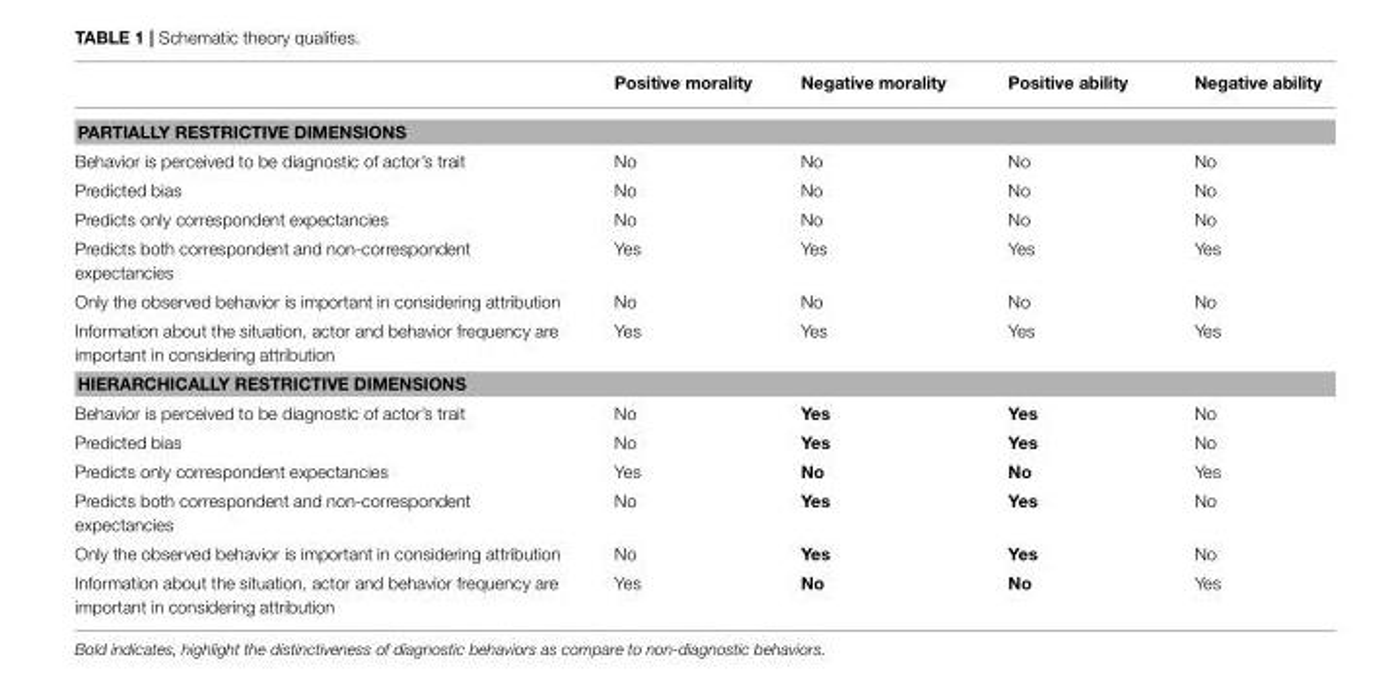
<table><thead><tr><td></td><td>Positive morality</td><td>Negative morality</td><td>Positive ability</td><td>Negative ability</td></tr></thead><tbody><tr><td colspan="5">PARTIALLY RESTRICTIVE DIMENSIONS</td></tr><tr><td>Behavior is perceived to be diagnostic of actor’s trait</td><td>No</td><td>No</td><td>No</td><td>No</td></tr><tr><td>Predicted bias</td><td>No</td><td>No</td><td>No</td><td>No</td></tr><tr><td>Predicts only correspondent expectancies</td><td>No</td><td>No</td><td>No</td><td>No</td></tr><tr><td>Predicts both correspondent and non-correspondent expectancies</td><td>Yes</td><td>Yes</td><td>Yes</td><td>Yes</td></tr><tr><td>Only the observed behavior is important in considering attribution</td><td>No</td><td>No</td><td>No</td><td>No</td></tr><tr><td>Information about the situation, actor and behavior frequency are important in considering attribution</td><td>Yes</td><td>Yes</td><td>Yes</td><td>Yes</td></tr><tr><td colspan="5">HIERARCHICALLY RESTRICTIVE DIMENSIONS</td></tr><tr><td>Behavior is perceived to be diagnostic of actor’s trait</td><td>No</td><td>Yes</td><td>Yes</td><td>No</td></tr><tr><td>Predicted bias</td><td>No</td><td>Yes</td><td>Yes</td><td>No</td></tr><tr><td>Predicts only correspondent expectancies</td><td>Yes</td><td>No</td><td>No</td><td>Yes</td></tr><tr><td>Predicts both correspondent and non-correspondent expectancies</td><td>No</td><td>Yes</td><td>Yes</td><td>No</td></tr><tr><td>Only the observed behavior is important in considering attribution</td><td>No</td><td>Yes</td><td>Yes</td><td>No</td></tr><tr><td>Information about the situation, actor and behavior frequency are important in considering attribution</td><td>Yes</td><td>No</td><td>No</td><td>Yes</td></tr></tbody></table>